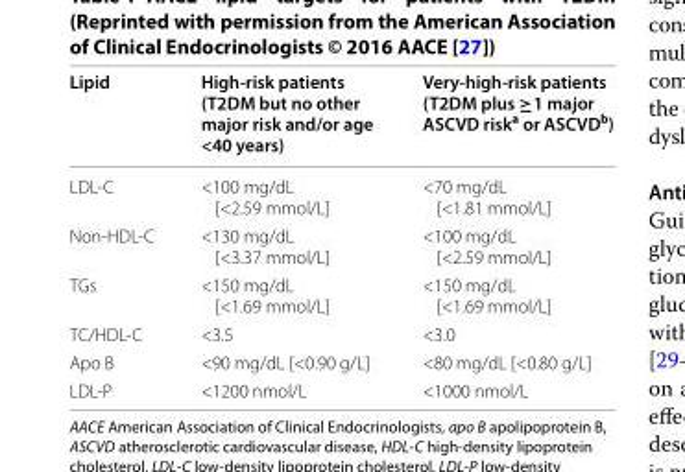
<table><thead><tr><td>Lipid</td><td>High-risk patients (T2DM but no other major risk and/or age &lt;40 years)</td><td>Very-high-risk patients (T2DM plus ≥1 major ASCVD risk<sup>a</sup> or ASCVD<sup>b</sup>)</td></tr></thead><tbody><tr><td>LDL-C</td><td>&lt;100 mg/dL [&lt;2.59 mmol/L]</td><td>&lt;70 mg/dL [&lt;1.81 mmol/L]</td></tr><tr><td>Non-HDL-C</td><td>&lt;130 mg/dL [&lt;3.37 mmol/L]</td><td>&lt;100 mg/dL [&lt;2.59 mmol/L]</td></tr><tr><td>TGs</td><td>&lt;150 mg/dL [&lt;1.69 mmol/L]</td><td>&lt;150 mg/dL [&lt;1.69 mmol/L]</td></tr><tr><td>TC/HDL-C</td><td>&lt;3.5</td><td>&lt;3.0</td></tr><tr><td>Apo B</td><td>&lt;90 mg/dL [&lt;0.90 g/L]</td><td>&lt;80 mg/dL [&lt;0.80 g/L]</td></tr><tr><td>LDL-P</td><td>&lt;1200 nmol/L</td><td>&lt;1000 nmol/L</td></tr></tbody></table>